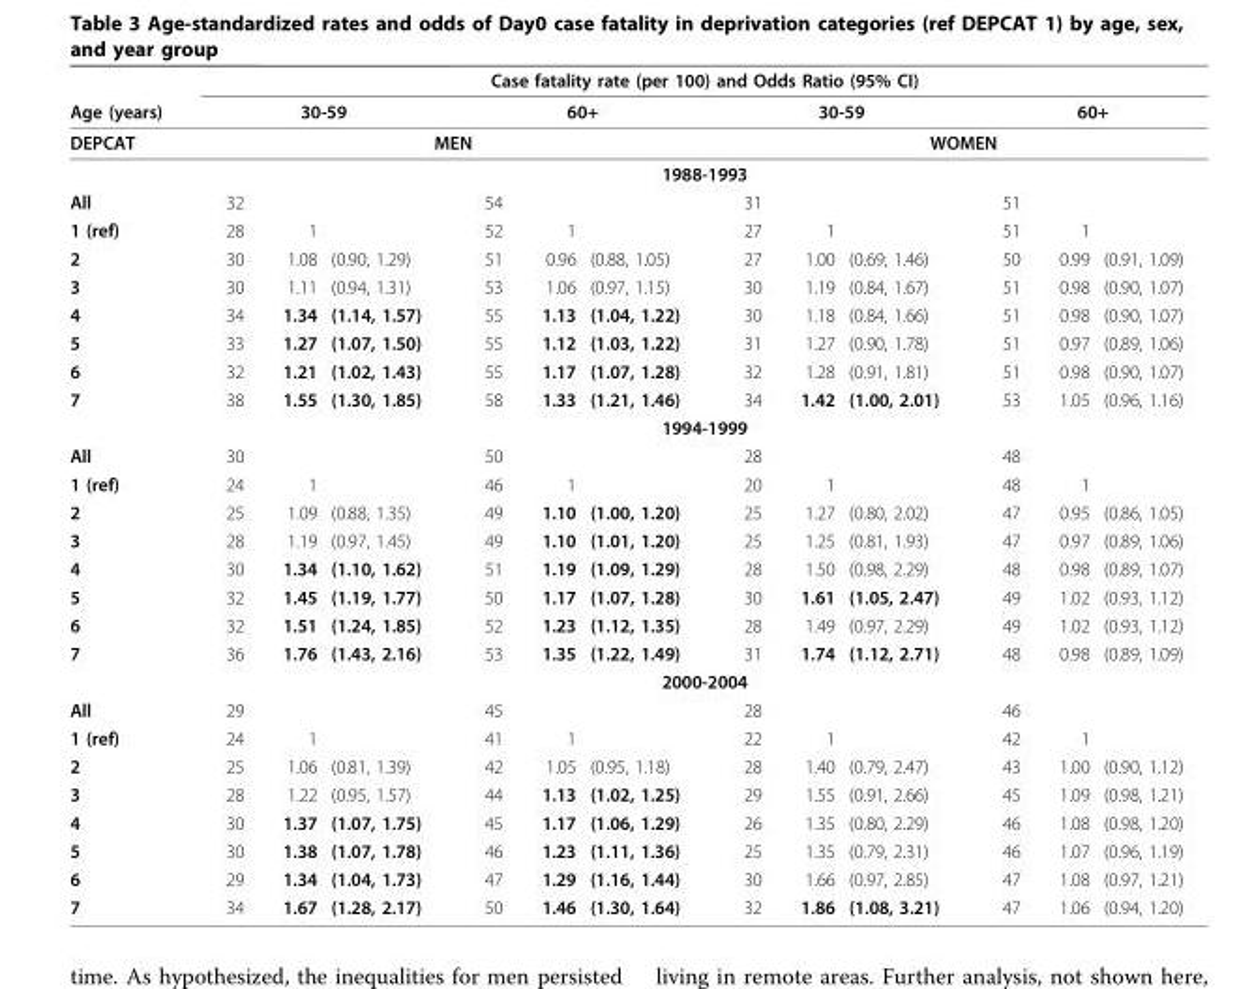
<table><thead><tr><td rowspan="5">Age (years) DEPCAT All</td><td colspan="12">Case fatality rate (per 100) and Odds Ratio (95% CI)</td></tr><tr><td colspan="3">30-59</td><td colspan="3">60+</td><td colspan="3">30-59</td><td colspan="3">60+</td></tr><tr><td colspan="6">MEN</td><td colspan="6">WOMEN</td></tr><tr><td colspan="12">1988-1993</td></tr><tr><td>32</td><td></td><td></td><td>54</td><td></td><td></td><td>31</td><td></td><td></td><td>51</td><td></td><td></td></tr></thead><tbody><tr><td>1 (ref)</td><td>28</td><td>1</td><td></td><td>52</td><td>1</td><td></td><td>27</td><td>1</td><td></td><td>51</td><td>1</td><td></td></tr><tr><td>2</td><td>30</td><td>1.08</td><td>(0.90, 1.29)</td><td>51</td><td>0.96</td><td>(0.88, 1.05)</td><td>27</td><td>1.00</td><td>(0.69, 1.46)</td><td>50</td><td>0.99</td><td>(0.91, 1.09)</td></tr><tr><td>3</td><td>30</td><td>1.11</td><td>(0.94, 1.31)</td><td>53</td><td>1.06</td><td>(0.97, 1.15)</td><td>30</td><td>1.19</td><td>(0.84, 1.67)</td><td>51</td><td>0.98</td><td>(0.90, 1.07)</td></tr><tr><td>4</td><td>34</td><td>1.34</td><td>(1.14, 1.57)</td><td>55</td><td>1.13</td><td>(1.04, 1.22)</td><td>30</td><td>1.18</td><td>(0.84, 1.66)</td><td>51</td><td>0.98</td><td>(0.90, 1.07)</td></tr><tr><td>5</td><td>33</td><td>1.27</td><td>(1.07, 1.50)</td><td>55</td><td>1.12</td><td>(1.03, 1.22)</td><td>31</td><td>1.27</td><td>(0.90, 1.78)</td><td>51</td><td>0.97</td><td>(0.89, 1.06)</td></tr><tr><td>6</td><td>32</td><td>1.21</td><td>(1.02, 1.43)</td><td>55</td><td>1.17</td><td>(1.07, 1.28)</td><td>32</td><td>1.28</td><td>(0.91, 1.81)</td><td>51</td><td>0.98</td><td>(0.90, 1.07)</td></tr><tr><td rowspan="2">7</td><td>38</td><td>1.55</td><td>(1.30, 1.85)</td><td>58</td><td>1.33</td><td>(1.21, 1.46)</td><td>34</td><td>1.42</td><td>(1.00, 2.01)</td><td>53</td><td>1.05</td><td>(0.96, 1.16)</td></tr><tr><td colspan="12">1994-1999</td></tr><tr><td>All</td><td>30</td><td></td><td></td><td>50</td><td></td><td></td><td>28</td><td></td><td></td><td>48</td><td></td><td></td></tr><tr><td>1 (ref)</td><td>24</td><td>1</td><td></td><td>46</td><td>1</td><td></td><td>20</td><td>1</td><td></td><td>48</td><td>1</td><td></td></tr><tr><td>2</td><td>25</td><td>1.09</td><td>(0.88, 1.35)</td><td>49</td><td>1.10</td><td>(1.00, 1.20)</td><td>25</td><td>1.27</td><td>(0.80, 2.02)</td><td>47</td><td>0.95</td><td>(0.86, 1.05)</td></tr><tr><td>3</td><td>28</td><td>1.19</td><td>(0.97, 1.45)</td><td>49</td><td>1.10</td><td>(1.01, 1.20)</td><td>25</td><td>1.25</td><td>(0.81, 1.93)</td><td>47</td><td>0.97</td><td>(0.89, 1.06)</td></tr><tr><td>4</td><td>30</td><td>1.34</td><td>(1.10, 1.62)</td><td>51</td><td>1.19</td><td>(1.09, 1.29)</td><td>28</td><td>1.50</td><td>(0.98, 2.29)</td><td>48</td><td>0.98</td><td>(0.89, 1.07)</td></tr><tr><td>5</td><td>32</td><td>1.45</td><td>(1.19, 1.77)</td><td>50</td><td>1.17</td><td>(1.07, 1.28)</td><td>30</td><td>1.61</td><td>(1.05, 2.47)</td><td>49</td><td>1.02</td><td>(0.93, 1.12)</td></tr><tr><td>6</td><td>32</td><td>1.51</td><td>(1.24, 1.85)</td><td>52</td><td>1.23</td><td>(1.12, 1.35)</td><td>28</td><td>1.49</td><td>(0.97, 2.29)</td><td>49</td><td>1.02</td><td>(0.93, 1.12)</td></tr><tr><td rowspan="2">7</td><td>36</td><td>1.76</td><td>(1.43, 2.16)</td><td>53</td><td>1.35</td><td>(1.22, 1.49)</td><td>31</td><td>1.74</td><td>(1.12, 2.71)</td><td>48</td><td>0.98</td><td>(0.89, 1.09)</td></tr><tr><td colspan="12">2000-2004</td></tr><tr><td>All</td><td>29</td><td></td><td></td><td>45</td><td></td><td></td><td>28</td><td></td><td></td><td>46</td><td></td><td></td></tr><tr><td>1 (ref)</td><td>24</td><td>1</td><td></td><td>41</td><td>1</td><td></td><td>22</td><td>1</td><td></td><td>42</td><td>1</td><td></td></tr><tr><td>2</td><td>25</td><td>1.06</td><td>(0.81, 1.39)</td><td>42</td><td>1.05</td><td>(0.95, 1.18)</td><td>28</td><td>1.40</td><td>(0.79, 2.47)</td><td>43</td><td>1.00</td><td>(0.90, 1.12)</td></tr><tr><td>3</td><td>28</td><td>1.22</td><td>(0.95, 1.57)</td><td>44</td><td>1.13</td><td>(1.02, 1.25)</td><td>29</td><td>1.55</td><td>(0.91, 2.66)</td><td>45</td><td>1.09</td><td>(0.98, 1.21)</td></tr><tr><td>4</td><td>30</td><td>1.37</td><td>(1.07, 1.75)</td><td>45</td><td>1.17</td><td>(1.06, 1.29)</td><td>26</td><td>1.35</td><td>(0.80, 2.29)</td><td>46</td><td>1.08</td><td>(0.98, 1.20)</td></tr><tr><td>5</td><td>30</td><td>1.38</td><td>(1.07, 1.78)</td><td>46</td><td>1.23</td><td>(1.11, 1.36)</td><td>25</td><td>1.35</td><td>(0.79, 2.31)</td><td>46</td><td>1.07</td><td>(0.96, 1.19)</td></tr><tr><td>6</td><td>29</td><td>1.34</td><td>(1.04, 1.73)</td><td>47</td><td>1.29</td><td>(1.16, 1.44)</td><td>30</td><td>1.66</td><td>(0.97, 2.85)</td><td>47</td><td>1.08</td><td>(0.97, 1.21)</td></tr><tr><td>7</td><td>34</td><td>1.67</td><td>(1.28, 2.17)</td><td>50</td><td>1.46</td><td>(1.30, 1.64)</td><td>32</td><td>1.86</td><td>(1.08, 3.21)</td><td>47</td><td>1.06</td><td>(0.94, 1.20)</td></tr></tbody></table>